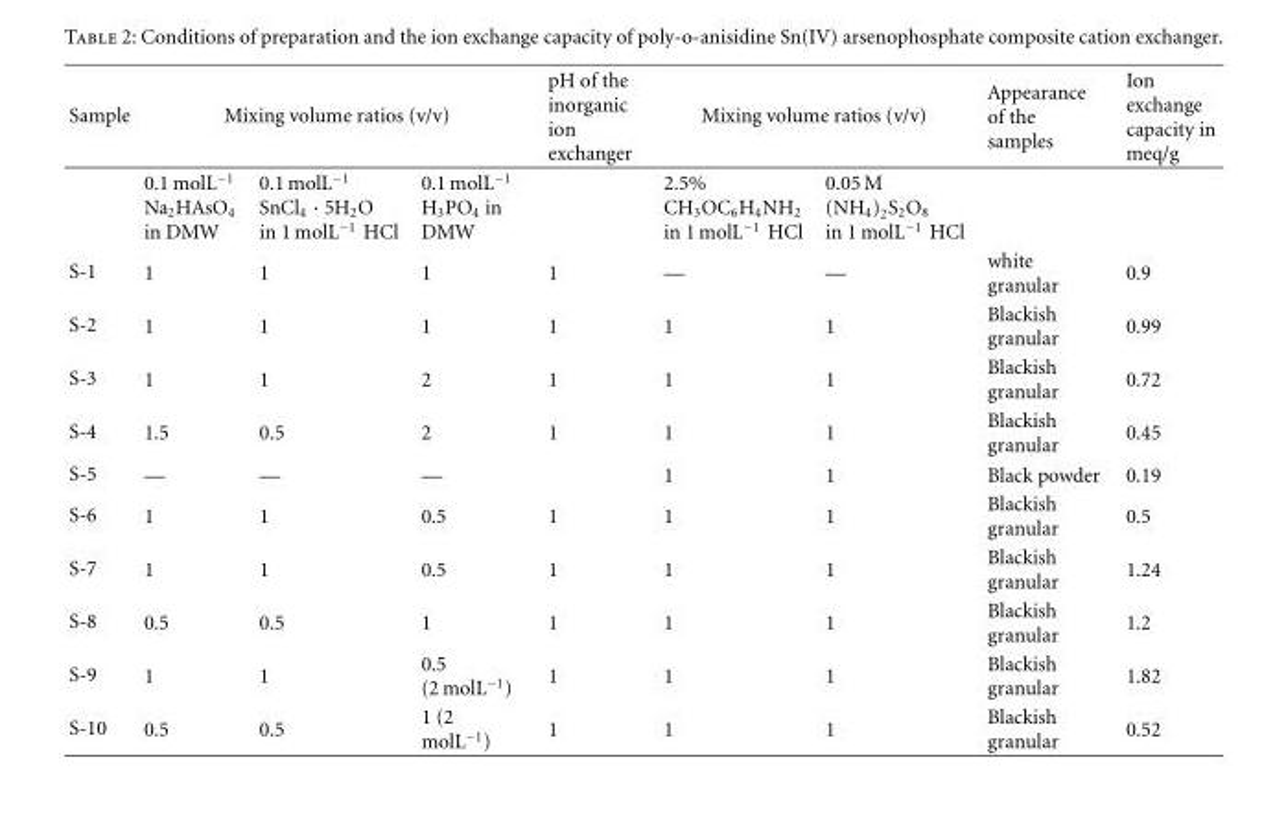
<table><thead><tr><td rowspan="2">Sample</td><td colspan="3">Mixing volume ratios (v/v)</td><td rowspan="2">pH of the inorganic ion exchanger</td><td colspan="2">Mixing volume ratios (v/v)</td><td rowspan="2">Appearance of the samples</td><td rowspan="2">Ion exchange capacity in meq/g</td></tr><tr><td>0.1 molL<sup>−1</sup> Na<sub>2</sub>HAsO<sub>4</sub> in DMW</td><td>0.1 molL<sup>−1</sup> SnCl<sub>4</sub> · 5H<sub>2</sub>O in 1 molL<sup>−1</sup> HCl</td><td>0.1 molL<sup>−1</sup> H<sub>3</sub>PO<sub>4</sub> in DMW</td><td>2.5% CH<sub>3</sub>OC<sub>6</sub>H<sub>4</sub>NH<sub>2</sub> in 1 molL<sup>−1</sup> HCl</td><td>0.05 M (NH<sub>4</sub>)<sub>2</sub>S<sub>2</sub>O<sub>8</sub> in 1 molL<sup>−1</sup> HCl</td></tr></thead><tbody><tr><td>S-1</td><td>1</td><td>1</td><td>1</td><td>1</td><td>—</td><td>—</td><td>white granular</td><td>0.9</td></tr><tr><td>S-2</td><td>1</td><td>1</td><td>1</td><td>1</td><td>1</td><td>1</td><td>Blackish granular</td><td>0.99</td></tr><tr><td>S-3</td><td>1</td><td>1</td><td>2</td><td>1</td><td>1</td><td>1</td><td>Blackish granular</td><td>0.72</td></tr><tr><td>S-4</td><td>1.5</td><td>0.5</td><td>2</td><td>1</td><td>1</td><td>1</td><td>Blackish granular</td><td>0.45</td></tr><tr><td>S-5</td><td>—</td><td>—</td><td>—</td><td></td><td>1</td><td>1</td><td>Black powder</td><td>0.19</td></tr><tr><td>S-6</td><td>1</td><td>1</td><td>0.5</td><td>1</td><td>1</td><td>1</td><td>Blackish granular</td><td>0.5</td></tr><tr><td>S-7</td><td>1</td><td>1</td><td>0.5</td><td>1</td><td>1</td><td>1</td><td>Blackish granular</td><td>1.24</td></tr><tr><td>S-8</td><td>0.5</td><td>0.5</td><td>1</td><td>1</td><td>1</td><td>1</td><td>Blackish granular</td><td>1.2</td></tr><tr><td>S-9</td><td>1</td><td>1</td><td>0.5 (2 molL<sup>−1</sup>)</td><td>1</td><td>1</td><td>1</td><td>Blackish granular</td><td>1.82</td></tr><tr><td>S-10</td><td>0.5</td><td>0.5</td><td>1 (2 molL<sup>−1</sup>)</td><td>1</td><td>1</td><td>1</td><td>Blackish granular</td><td>0.52</td></tr></tbody></table>